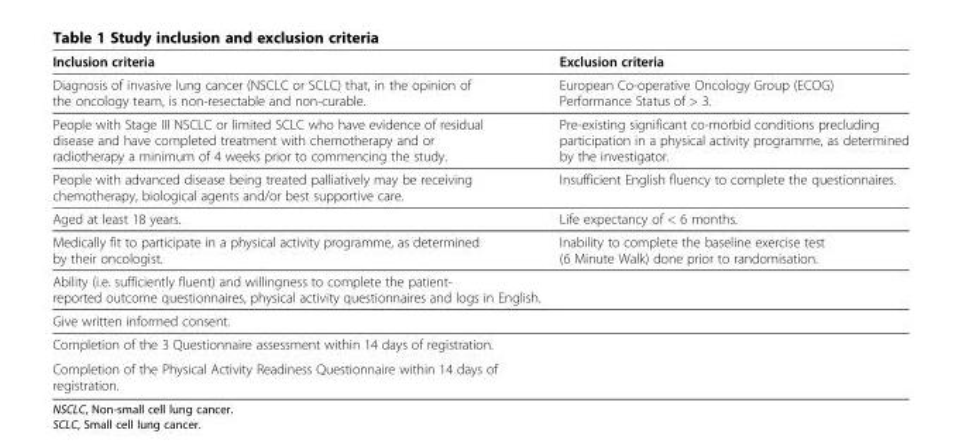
<table><thead><tr><td>Inclusion criteria</td><td>Exclusion criteria</td></tr></thead><tbody><tr><td>Diagnosis of invasive lung cancer (NSCLC or SCLC) that, in the opinion of the oncology team, is non-resectable and non-curable.</td><td>European Co-operative Oncology Group (ECOG) Performance Status of &gt; 3.</td></tr><tr><td>People with Stage III NSCLC or limited SCLC who have evidence of residual disease and have completed treatment with chemotherapy and or radiotherapy a minimum of 4 weeks prior to commencing the study.</td><td>Pre-existing significant co-morbid conditions precluding participation in a physical activity programme, as determined by the investigator.</td></tr><tr><td>People with advanced disease being treated palliatively may be receiving chemotherapy, biological agents and/or best supportive care.</td><td>Insufficient English fluency to complete the questionnaires.</td></tr><tr><td>Aged at least 18 years.</td><td>Life expectancy of &lt; 6 months.</td></tr><tr><td>Medically fit to participate in a physical activity programme, as determined by their oncologist.</td><td>Inability to complete the baseline exercise test (6 Minute Walk) done prior to randomisation.</td></tr><tr><td colspan="2">Ability (i.e. sufficiently fluent) and willingness to complete the patient- reported outcome questionnaires, physical activity questionnaires and logs in English.</td></tr><tr><td colspan="2">Give written informed consent.</td></tr><tr><td colspan="2">Completion of the 3 Questionnaire assessment within 14 days of registration.</td></tr><tr><td>Completion of the Physical Activity Readiness Questionnaire within 14 days of registration.</td><td></td></tr></tbody></table>